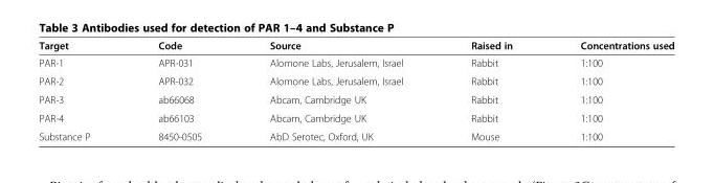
<table><thead><tr><td>Target</td><td>Code</td><td>Source</td><td>Raised in</td><td>Concentrations used</td></tr></thead><tbody><tr><td>PAR-1</td><td>APR-031</td><td>Alomone Labs, Jerusalem, Israel</td><td>Rabbit</td><td>1:100</td></tr><tr><td>PAR-2</td><td>APR-032</td><td>Alomone Labs, Jerusalem, Israel</td><td>Rabbit</td><td>1:100</td></tr><tr><td>PAR-3</td><td>ab66068</td><td>Abcam, Cambridge UK</td><td>Rabbit</td><td>1:100</td></tr><tr><td>PAR-4</td><td>ab66103</td><td>Abcam, Cambridge UK</td><td>Rabbit</td><td>1:100</td></tr><tr><td>Substance P</td><td>8450-0505</td><td>AbD Serotec, Oxford, UK</td><td>Mouse</td><td>1:100</td></tr></tbody></table>